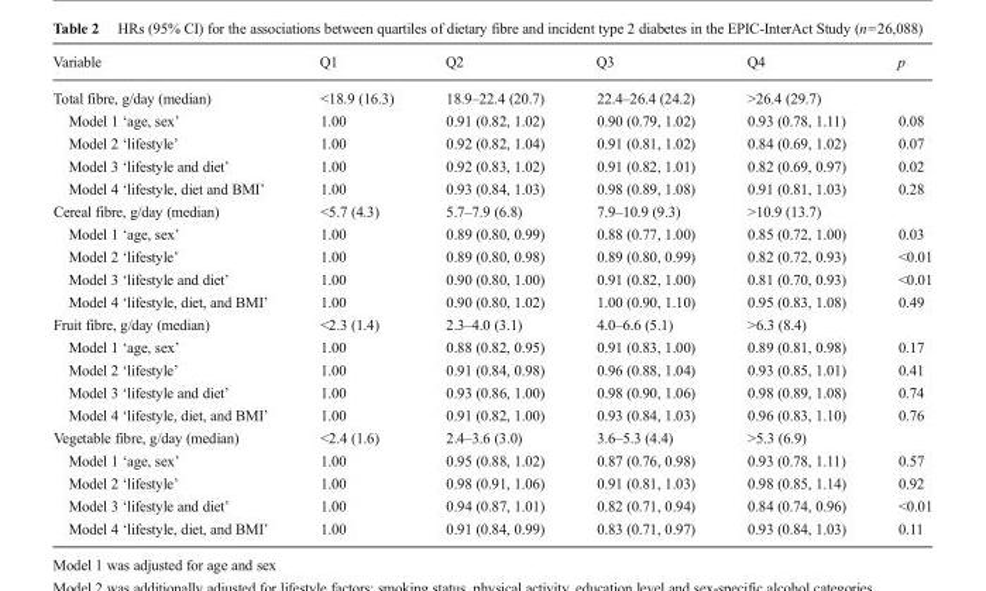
<table><thead><tr><td>Variable</td><td>Q1</td><td>Q2</td><td>Q3</td><td>Q4</td><td>p</td></tr></thead><tbody><tr><td>Total fibre, g/day (median)</td><td>&lt;18.9 (16.3)</td><td>18.9–22.4 (20.7)</td><td>22.4–26.4 (24.2)</td><td>&gt;26.4 (29.7)</td><td></td></tr><tr><td>Model 1 ‘age, sex’</td><td>1.00</td><td>0.91 (0.82, 1.02)</td><td>0.90 (0.79, 1.02)</td><td>0.93 (0.78, 1.11)</td><td>0.08</td></tr><tr><td>Model 2 ‘lifestyle’</td><td>1.00</td><td>0.92 (0.82, 1.04)</td><td>0.91 (0.81, 1.02)</td><td>0.84 (0.69, 1.02)</td><td>0.07</td></tr><tr><td>Model 3 ‘lifestyle and diet’</td><td>1.00</td><td>0.92 (0.83, 1.02)</td><td>0.91 (0.82, 1.01)</td><td>0.82 (0.69, 0.97)</td><td>0.02</td></tr><tr><td>Model 4 ‘lifestyle, diet and BMI’</td><td>1.00</td><td>0.93 (0.84, 1.03)</td><td>0.98 (0.89, 1.08)</td><td>0.91 (0.81, 1.03)</td><td>0.28</td></tr><tr><td>Cereal fibre, g/day (median)</td><td>&lt;5.7 (4.3)</td><td>5.7–7.9 (6.8)</td><td>7.9–10.9 (9.3)</td><td>&gt;10.9 (13.7)</td><td></td></tr><tr><td>Model 1 ‘age, sex’</td><td>1.00</td><td>0.89 (0.80, 0.99)</td><td>0.88 (0.77, 1.00)</td><td>0.85 (0.72, 1.00)</td><td>0.03</td></tr><tr><td>Model 2 ‘lifestyle’</td><td>1.00</td><td>0.89 (0.80, 0.98)</td><td>0.89 (0.80, 0.99)</td><td>0.82 (0.72, 0.93)</td><td>&lt;0.01</td></tr><tr><td>Model 3 ‘lifestyle and diet’</td><td>1.00</td><td>0.90 (0.80, 1.00)</td><td>0.91 (0.82, 1.00)</td><td>0.81 (0.70, 0.93)</td><td>&lt;0.01</td></tr><tr><td>Model 4 ‘lifestyle, diet, and BMI’</td><td>1.00</td><td>0.90 (0.80, 1.02)</td><td>1.00 (0.90, 1.10)</td><td>0.95 (0.83, 1.08)</td><td>0.49</td></tr><tr><td>Fruit fibre, g/day (median)</td><td>&lt;2.3 (1.4)</td><td>2.3–4.0 (3.1)</td><td>4.0–6.6 (5.1)</td><td>&gt;6.3 (8.4)</td><td></td></tr><tr><td>Model 1 ‘age, sex’</td><td>1.00</td><td>0.88 (0.82, 0.95)</td><td>0.91 (0.83, 1.00)</td><td>0.89 (0.81, 0.98)</td><td>0.17</td></tr><tr><td>Model 2 ‘lifestyle’</td><td>1.00</td><td>0.91 (0.84, 0.98)</td><td>0.96 (0.88, 1.04)</td><td>0.93 (0.85, 1.01)</td><td>0.41</td></tr><tr><td>Model 3 ‘lifestyle and diet’</td><td>1.00</td><td>0.93 (0.86, 1.00)</td><td>0.98 (0.90, 1.06)</td><td>0.98 (0.89, 1.08)</td><td>0.74</td></tr><tr><td>Model 4 ‘lifestyle, diet, and BMI’</td><td>1.00</td><td>0.91 (0.82, 1.00)</td><td>0.93 (0.84, 1.03)</td><td>0.96 (0.83, 1.10)</td><td>0.76</td></tr><tr><td>Vegetable fibre, g/day (median)</td><td>&lt;2.4 (1.6)</td><td>2.4–3.6 (3.0)</td><td>3.6–5.3 (4.4)</td><td>&gt;5.3 (6.9)</td><td></td></tr><tr><td>Model 1 ‘age, sex’</td><td>1.00</td><td>0.95 (0.88, 1.02)</td><td>0.87 (0.76, 0.98)</td><td>0.93 (0.78, 1.11)</td><td>0.57</td></tr><tr><td>Model 2 ‘lifestyle’</td><td>1.00</td><td>0.98 (0.91, 1.06)</td><td>0.91 (0.81, 1.03)</td><td>0.98 (0.85, 1.14)</td><td>0.92</td></tr><tr><td>Model 3 ‘lifestyle and diet’</td><td>1.00</td><td>0.94 (0.87, 1.01)</td><td>0.82 (0.71, 0.94)</td><td>0.84 (0.74, 0.96)</td><td>&lt;0.01</td></tr><tr><td>Model 4 ‘lifestyle, diet, and BMI’</td><td>1.00</td><td>0.91 (0.84, 0.99)</td><td>0.83 (0.71, 0.97)</td><td>0.93 (0.84, 1.03)</td><td>0.11</td></tr></tbody></table>